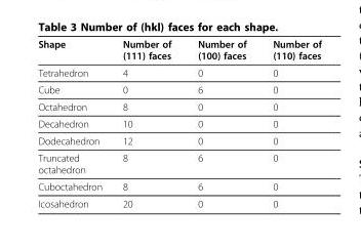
<table><thead><tr><td>Shape</td><td>Number of (111) faces</td><td>Number of (100) faces</td><td>Number of (110) faces</td></tr></thead><tbody><tr><td>Tetrahedron</td><td>4</td><td>0</td><td>0</td></tr><tr><td>Cube</td><td>0</td><td>6</td><td>0</td></tr><tr><td>Octahedron</td><td>8</td><td>0</td><td>0</td></tr><tr><td>Decahedron</td><td>10</td><td>0</td><td>0</td></tr><tr><td>Dodecahedron</td><td>12</td><td>0</td><td>0</td></tr><tr><td>Truncated octahedron</td><td>8</td><td>6</td><td>0</td></tr><tr><td>Cuboctahedron</td><td>8</td><td>6</td><td>0</td></tr><tr><td>Icosahedron</td><td>20</td><td>0</td><td>0</td></tr></tbody></table>